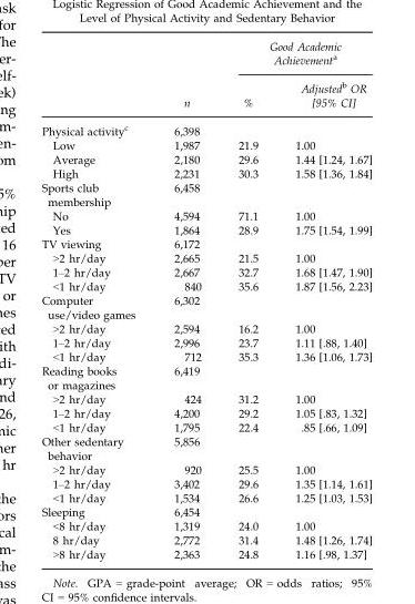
<table><thead><tr><td rowspan="2"></td><td rowspan="2">n</td><td colspan="2">Good Academic Achievement<sup>a</sup></td></tr><tr><td>%</td><td>Adjusted<sup>b</sup> OR [95% CI]</td></tr></thead><tbody><tr><td>Physical activity<sup>c</sup></td><td>6,398</td><td></td><td></td></tr><tr><td>Low</td><td>1,987</td><td>21.9</td><td>1.00</td></tr><tr><td>Average</td><td>2,180</td><td>29.6</td><td>1.44 [1.24, 1.67]</td></tr><tr><td>High</td><td>2,231</td><td>30.3</td><td>1.58 [1.36, 1.84]</td></tr><tr><td>Sports club membership</td><td>6,458</td><td></td><td></td></tr><tr><td>No</td><td>4,594</td><td>71.1</td><td>1.00</td></tr><tr><td>Yes</td><td>1,864</td><td>28.9</td><td>1.75 [1.54, 1.99]</td></tr><tr><td>TV viewing</td><td>6,172</td><td></td><td></td></tr><tr><td>&gt;2 hr/day</td><td>2,665</td><td>21.5</td><td>1.00</td></tr><tr><td>1–2 hr/day</td><td>2,667</td><td>32.7</td><td>1.68 [1.47, 1.90]</td></tr><tr><td>&lt;1 hr/day</td><td>840</td><td>35.6</td><td>1.87 [1.56, 2.23]</td></tr><tr><td>Computer use/video games</td><td>6,302</td><td></td><td></td></tr><tr><td>&gt;2 hr/day</td><td>2,594</td><td>16.2</td><td>1.00</td></tr><tr><td>1–2 hr/day</td><td>2,996</td><td>23.7</td><td>1.11 [.88, 1.40]</td></tr><tr><td>&lt;1 hr/day</td><td>712</td><td>35.3</td><td>1.36 [1.06, 1.73]</td></tr><tr><td>Reading books or magazines</td><td>6,419</td><td></td><td></td></tr><tr><td>&gt;2 hr/day</td><td>424</td><td>31.2</td><td>1.00</td></tr><tr><td>1–2 hr/day</td><td>4,200</td><td>29.2</td><td>1.05 [.83, 1.32]</td></tr><tr><td>&lt;1 hr/day</td><td>1,795</td><td>22.4</td><td>.85 [.66, 1.09]</td></tr><tr><td>Other sedentary behavior</td><td>5,856</td><td></td><td></td></tr><tr><td>&gt;2 hr/day</td><td>920</td><td>25.5</td><td>1.00</td></tr><tr><td>1–2 hr/day</td><td>3,402</td><td>29.6</td><td>1.35 [1.14, 1.61]</td></tr><tr><td>&lt;1 hr/day</td><td>1,534</td><td>26.6</td><td>1.25 [1.03, 1.53]</td></tr><tr><td>Sleeping</td><td>6,454</td><td></td><td></td></tr><tr><td>&lt;8 hr/day</td><td>1,319</td><td>24.0</td><td>1.00</td></tr><tr><td>8 hr/day</td><td>2,772</td><td>31.4</td><td>1.48 [1.26, 1.74]</td></tr><tr><td>&gt;8 hr/day</td><td>2,363</td><td>24.8</td><td>1.16 [.98, 1.37]</td></tr></tbody></table>